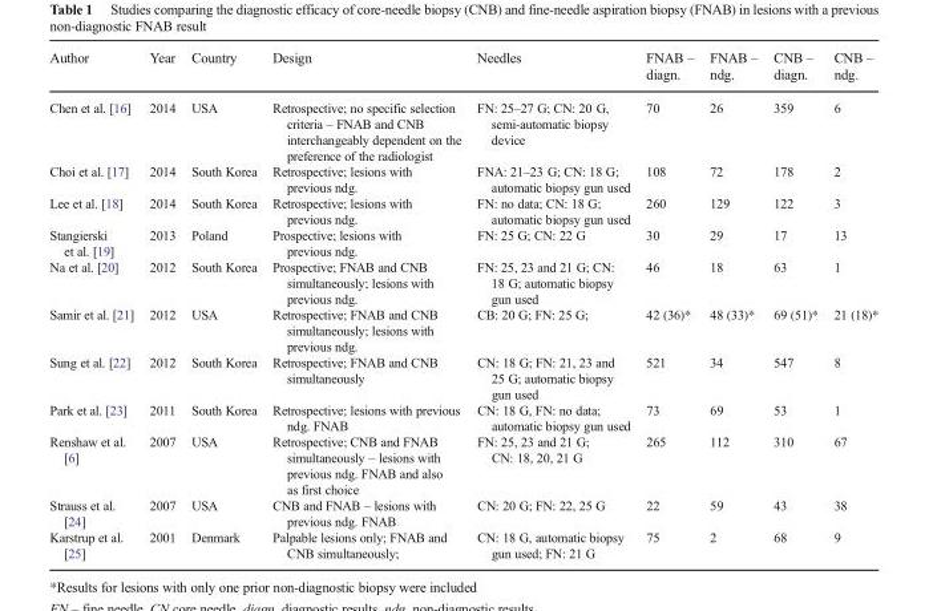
<table><thead><tr><td>Author</td><td>Year</td><td>Country</td><td>Design</td><td>Needles</td><td>FNAB – diagn.</td><td>FNAB – ndg.</td><td>CNB – diagn.</td><td>CNB – ndg.</td></tr></thead><tbody><tr><td>Chen et al. [16]</td><td>2014</td><td>USA</td><td>Retrospective; no specific selection criteria – FNAB and CNB interchangeably dependent on the preference of the radiologist</td><td>FN: 25–27 G; CN: 20 G, semi-automatic biopsy device</td><td>70</td><td>26</td><td>359</td><td>6</td></tr><tr><td>Choi et al. [17]</td><td>2014</td><td>South Korea</td><td>Retrospective; lesions with previous ndg.</td><td>FNA: 21–23 G; CN: 18 G; automatic biopsy gun used</td><td>108</td><td>72</td><td>178</td><td>2</td></tr><tr><td>Lee et al. [18]</td><td>2014</td><td>South Korea</td><td>Retrospective; lesions with previous ndg.</td><td>FN: no data; CN: 18 G; automatic biopsy gun used</td><td>260</td><td>129</td><td>122</td><td>3</td></tr><tr><td>Stangierski et al. [19]</td><td>2013</td><td>Poland</td><td>Prospective; lesions with previous ndg.</td><td>FN: 25 G; CN: 22 G</td><td>30</td><td>29</td><td>17</td><td>13</td></tr><tr><td>Na et al. [20]</td><td>2012</td><td>South Korea</td><td>Prospective; FNAB and CNB simultaneously; lesions with previous ndg.</td><td>FN: 25, 23 and 21 G; CN: 18 G; automatic biopsy gun used</td><td>46</td><td>18</td><td>63</td><td>1</td></tr><tr><td>Samir et al. [21]</td><td>2012</td><td>USA</td><td>Retrospective; FNAB and CNB simultaneously; lesions with previous ndg.</td><td>CB: 20 G; FN: 25 G;</td><td>42 (36)*</td><td>48 (33)*</td><td>69 (51)*</td><td>21 (18)*</td></tr><tr><td>Sung et al. [22]</td><td>2012</td><td>South Korea</td><td>Retrospective; FNAB and CNB simultaneously</td><td>CN: 18 G; FN: 21, 23 and 25 G; automatic biopsy gun used</td><td>521</td><td>34</td><td>547</td><td>8</td></tr><tr><td>Park et al. [23]</td><td>2011</td><td>South Korea</td><td>Retrospective; lesions with previous ndg. FNAB</td><td>CN: 18 G, FN: no data; automatic biopsy gun used</td><td>73</td><td>69</td><td>53</td><td>1</td></tr><tr><td>Renshaw et al. [6]</td><td>2007</td><td>USA</td><td>Retrospective; CNB and FNAB simultaneously – lesions with previous ndg. FNAB and also as first choice</td><td>FN: 25, 23 and 21 G; CN: 18, 20, 21 G</td><td>265</td><td>112</td><td>310</td><td>67</td></tr><tr><td>Strauss et al. [24]</td><td>2007</td><td>USA</td><td>CNB and FNAB – lesions with previous ndg. FNAB</td><td>CN: 20 G; FN: 22, 25 G</td><td>22</td><td>59</td><td>43</td><td>38</td></tr><tr><td>Karstrup et al. [25]</td><td>2001</td><td>Denmark</td><td>Palpable lesions only; FNAB and CNB simultaneously;</td><td>CN: 18 G, automatic biopsy gun used; FN: 21 G</td><td>75</td><td>2</td><td>68</td><td>9</td></tr></tbody></table>